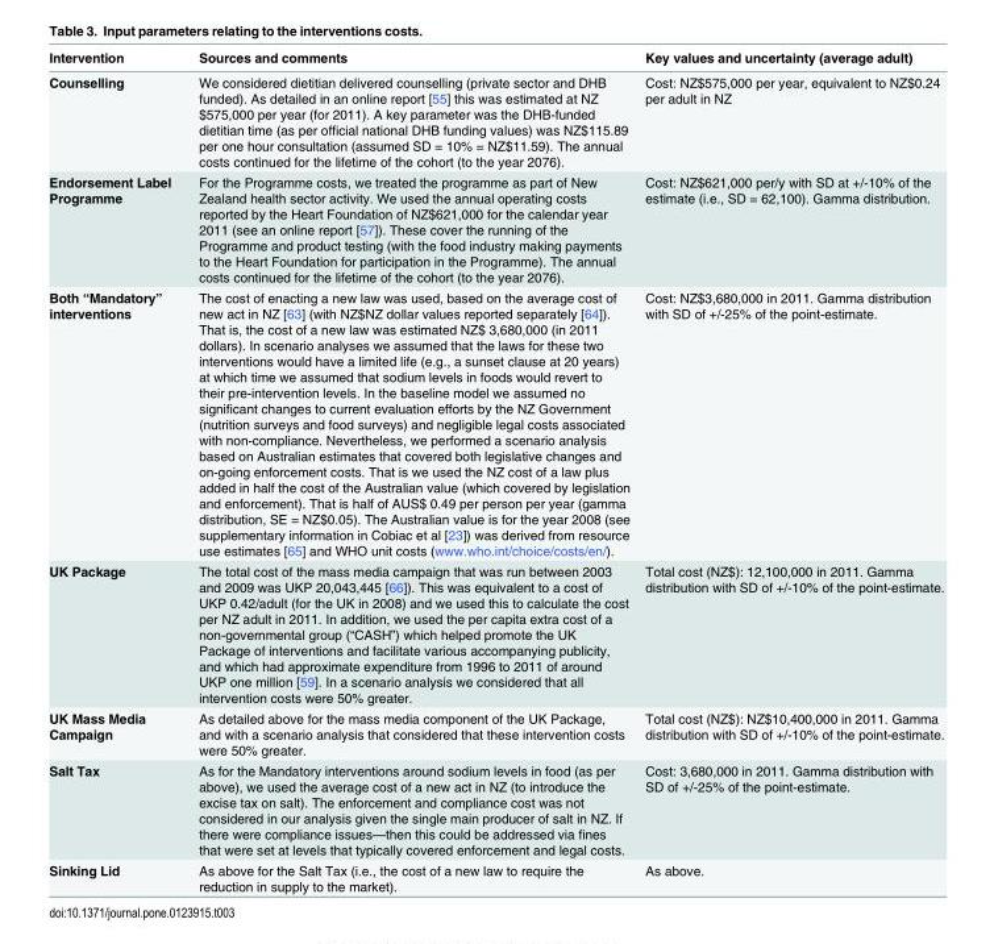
<table><thead><tr><td>Intervention</td><td>Sources and comments</td><td>Key values and uncertainty (average adult)</td></tr></thead><tbody><tr><td>Counselling</td><td>We considered dietitian delivered counselling (private sector and DHB funded). As detailed in an online report [55] this was estimated at NZ $575,000 per year (for 2011). A key parameter was the DHB-funded dietitian time (as per official national DHB funding values) was NZ$115.89 per one hour consultation (assumed SD = 10% = NZ$11.59). The annual costs continued for the lifetime of the cohort (to the year 2076).</td><td>Cost: NZ$575,000 per year, equivalent to NZ$0.24 per adult in NZ</td></tr><tr><td>Endorsement Label Programme</td><td>For the Programme costs, we treated the programme as part of New Zealand health sector activity. We used the annual operating costs reported by the Heart Foundation of NZ$621,000 for the calendar year 2011 (see an online report [57]). These cover the running of the Programme and product testing (with the food industry making payments to the Heart Foundation for participation in the Programme). The annual costs continued for the lifetime of the cohort (to the year 2076).</td><td>Cost: NZ$621,000 per/y with SD at +/-10% of the estimate (i.e., SD = 62,100). Gamma distribution.</td></tr><tr><td>Both “Mandatory” interventions</td><td>The cost of enacting a new law was used, based on the average cost of new act in NZ [63] (with NZ$NZ dollar values reported separately [64]). That is, the cost of a new law was estimated NZ$ 3,680,000 (in 2011 dollars). In scenario analyses we assumed that the laws for these two interventions would have a limited life (e.g., a sunset clause at 20 years) at which time we assumed that sodium levels in foods would revert to their pre-intervention levels. In the baseline model we assumed no significant changes to current evaluation efforts by the NZ Government (nutrition surveys and food surveys) and negligible legal costs associated with non-compliance. Nevertheless, we performed a scenario analysis based on Australian estimates that covered both legislative changes and on-going enforcement costs. That is we used the NZ cost of a law plus added in half the cost of the Australian value (which covered by legislation and enforcement). That is half of AUS$ 0.49 per person per year (gamma distribution, SE = NZ$0.05). The Australian value is for the year 2008 (see supplementary information in Cobiac et al [23]) was derived from resource use estimates [65] and WHO unit costs (www.who.int/choice/costs/en/).</td><td>Cost: NZ$3,680,000 in 2011. Gamma distribution with SD of +/-25% of the point-estimate.</td></tr><tr><td>UK Package</td><td>The total cost of the mass media campaign that was run between 2003 and 2009 was UKP 20,043,445 [66]). This was equivalent to a cost of UKP 0.42/adult (for the UK in 2008) and we used this to calculate the cost per NZ adult in 2011. In addition, we used the per capita extra cost of a non-governmental group (“CASH”) which helped promote the UK Package of interventions and facilitate various accompanying publicity, and which had approximate expenditure from 1996 to 2011 of around UKP one million [59]. In a scenario analysis we considered that all intervention costs were 50% greater.</td><td>Total cost (NZ$): 12,100,000 in 2011. Gamma distribution with SD of +/-10% of the point-estimate.</td></tr><tr><td>UK Mass Media Campaign</td><td>As detailed above for the mass media component of the UK Package, and with a scenario analysis that considered that these intervention costs were 50% greater.</td><td>Total cost (NZ$): NZ$10,400,000 in 2011. Gamma distribution with SD of +/-10% of the point-estimate.</td></tr><tr><td>Salt Tax</td><td>As for the Mandatory interventions around sodium levels in food (as per above), we used the average cost of a new act in NZ (to introduce the excise tax on salt). The enforcement and compliance cost was not considered in our analysis given the single main producer of salt in NZ. If there were compliance issues—then this could be addressed via fines that were set at levels that typically covered enforcement and legal costs.</td><td>Cost: 3,680,000 in 2011. Gamma distribution with SD of +/-25% of the point-estimate.</td></tr><tr><td>Sinking Lid</td><td>As above for the Salt Tax (i.e., the cost of a new law to require the reduction in supply to the market).</td><td>As above.</td></tr></tbody></table>